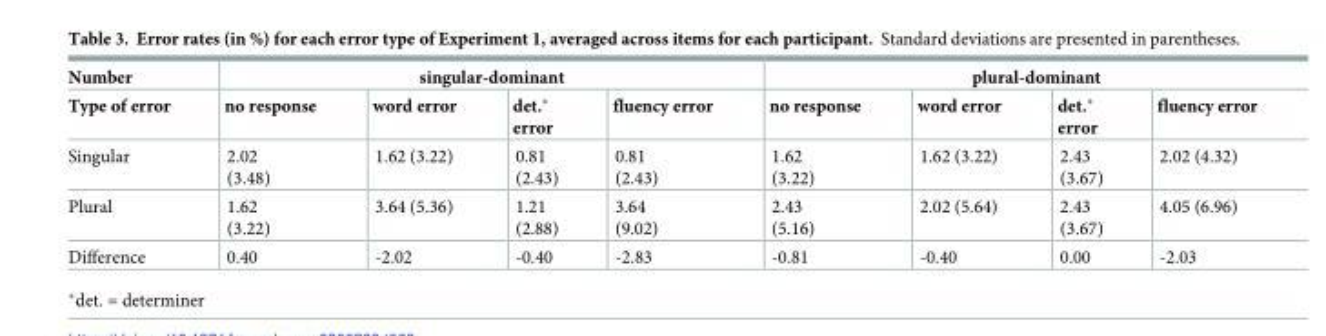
<table><thead><tr><td rowspan="2">Number Type of error</td><td colspan="4">singular-dominant</td><td colspan="4">plural-dominant</td></tr><tr><td>no response</td><td>word error</td><td>det.* error</td><td>fluency error</td><td>no response</td><td>word error</td><td>det.* error</td><td>fluency error</td></tr></thead><tbody><tr><td>Singular</td><td>2.02 (3.48)</td><td>1.62 (3.22)</td><td>0.81 (2.43)</td><td>0.81 (2.43)</td><td>1.62 (3.22)</td><td>1.62 (3.22)</td><td>2.43 (3.67)</td><td>2.02 (4.32)</td></tr><tr><td>Plural</td><td>1.62 (3.22)</td><td>3.64 (5.36)</td><td>1.21 (2.88)</td><td>3.64 (9.02)</td><td>2.43 (5.16)</td><td>2.02 (5.64)</td><td>2.43 (3.67)</td><td>4.05 (6.96)</td></tr><tr><td>Difference</td><td>0.40</td><td>-2.02</td><td>-0.40</td><td>-2.83</td><td>-0.81</td><td>-0.40</td><td>0.00</td><td>-2.03</td></tr></tbody></table>